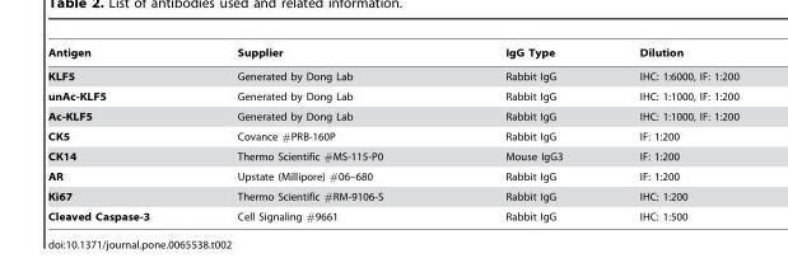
<table><thead><tr><td>Antigen</td><td>Supplier</td><td>IgG Type</td><td>Dilution</td></tr></thead><tbody><tr><td>KLF5</td><td>Generated by Dong Lab</td><td>Rabbit IgG</td><td>IHC: 1:6000, IF: 1:200</td></tr><tr><td>unAc-KLF5</td><td>Generated by Dong Lab</td><td>Rabbit IgG</td><td>IHC: 1:1000, IF: 1:200</td></tr><tr><td>Ac-KLF5</td><td>Generated by Dong Lab</td><td>Rabbit IgG</td><td>IHC: 1:1000, IF: 1:200</td></tr><tr><td>CK5</td><td>Covance #PRB-160P</td><td>Rabbit IgG</td><td>IF: 1:200</td></tr><tr><td>CK14</td><td>Thermo Scientific #MS-115-P0</td><td>Mouse IgG3</td><td>IF: 1:200</td></tr><tr><td>AR</td><td>Upstate (Millipore) #06–680</td><td>Rabbit IgG</td><td>IF: 1:200</td></tr><tr><td>Ki67</td><td>Thermo Scientific #RM-9106-S</td><td>Rabbit IgG</td><td>IHC: 1:200</td></tr><tr><td>Cleaved Caspase-3</td><td>Cell Signaling #9661</td><td>Rabbit IgG</td><td>IHC: 1:500</td></tr></tbody></table>